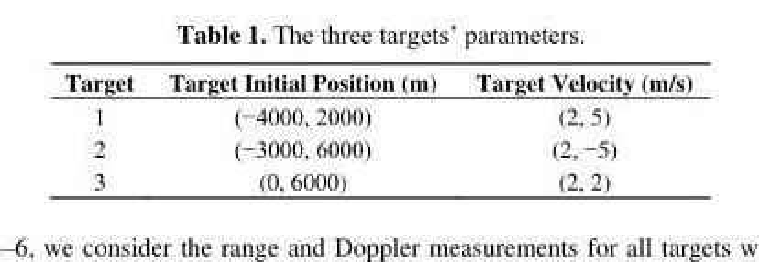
<table><thead><tr><td>Target</td><td>Target Initial Position (m)</td><td>Target Velocity (m/s)</td></tr></thead><tbody><tr><td>1</td><td>(−4000, 2000)</td><td>(2, 5)</td></tr><tr><td>2</td><td>(−3000, 6000)</td><td>(2, −5)</td></tr><tr><td>3</td><td>(0, 6000)</td><td>(2, 2)</td></tr></tbody></table>